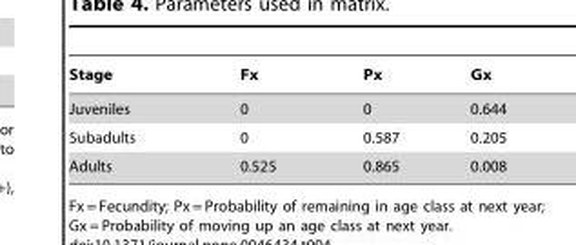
<table><thead><tr><td>Stage</td><td>Fx</td><td>Px</td><td>Gx</td></tr></thead><tbody><tr><td>Juveniles</td><td>0</td><td>0</td><td>0.644</td></tr><tr><td>Subadults</td><td>0</td><td>0.587</td><td>0.205</td></tr><tr><td>Adults</td><td>0.525</td><td>0.865</td><td>0.008</td></tr></tbody></table>